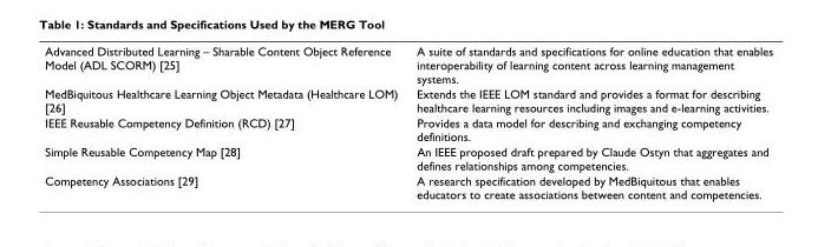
<table><tbody><tr><td>Advanced Distributed Learning – Sharable Content Object Reference Model (ADL SCORM) [25]</td><td>A suite of standards and specifications for online education that enables interoperability of learning content across learning management systems.</td></tr><tr><td>MedBiquitous Healthcare Learning Object Metadata (Healthcare LOM) [26]</td><td>Extends the IEEE LOM standard and provides a format for describing healthcare learning resources including images and e-learning activities.</td></tr><tr><td>IEEE Reusable Competency Definition (RCD) [27]</td><td>Provides a data model for describing and exchanging competency definitions.</td></tr><tr><td>Simple Reusable Competency Map [28]</td><td>An IEEE proposed draft prepared by Claude Ostyn that aggregates and defines relationships among competencies.</td></tr><tr><td>Competency Associations [29]</td><td>A research specification developed by MedBiquitous that enables educators to create associations between content and competencies.</td></tr></tbody></table>